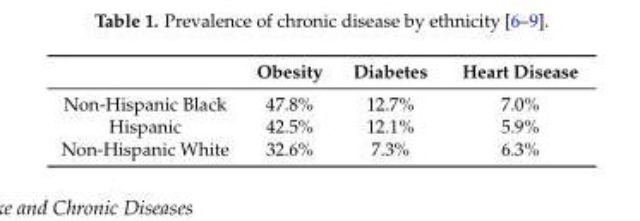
<table><thead><tr><td></td><td>Obesity</td><td>Diabetes</td><td>Heart Disease</td></tr></thead><tbody><tr><td>Non-Hispanic Black</td><td>47.8%</td><td>12.7%</td><td>7.0%</td></tr><tr><td>Hispanic</td><td>42.5%</td><td>12.1%</td><td>5.9%</td></tr><tr><td>Non-Hispanic White</td><td>32.6%</td><td>7.3%</td><td>6.3%</td></tr></tbody></table>